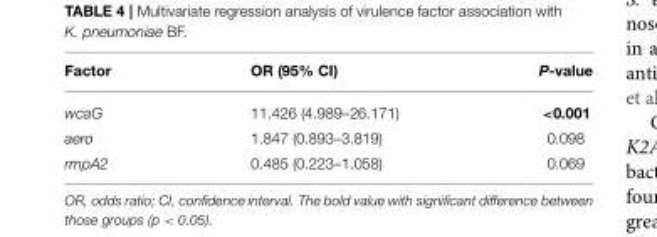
<table><thead><tr><td>Factor</td><td>OR (95% CI)</td><td>P-value</td></tr></thead><tbody><tr><td>wcaG</td><td>11.426 (4.989–26.171)</td><td>&lt;0.001</td></tr><tr><td>aero</td><td>1.847 (0.893–3.819)</td><td>0.098</td></tr><tr><td>rmpA2</td><td>0.485 (0.223–1.058)</td><td>0.069</td></tr></tbody></table>